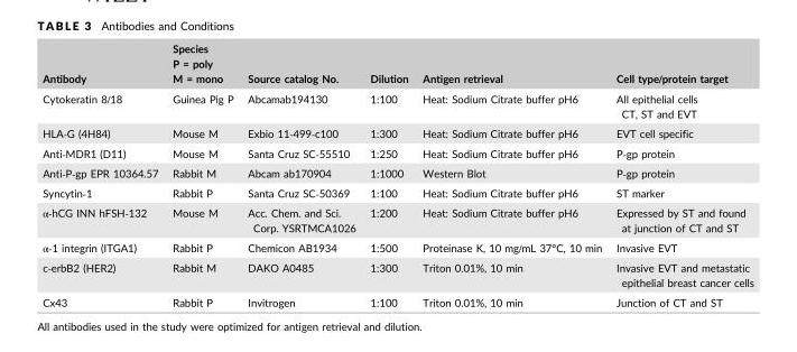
<table><thead><tr><td>Antibody</td><td>Species P = poly M = mono</td><td>Source catalog No.</td><td>Dilution</td><td>Antigen retrieval</td><td>Cell type/protein target</td></tr></thead><tbody><tr><td>Cytokeratin 8/18</td><td>Guinea Pig P</td><td>Abcamab194130</td><td>1:100</td><td>Heat: Sodium Citrate buffer pH6</td><td>All epithelial cells CT, ST and EVT</td></tr><tr><td>HLA‐G (4H84)</td><td>Mouse M</td><td>Exbio 11‐499‐c100</td><td>1:300</td><td>Heat: Sodium Citrate buffer pH6</td><td>EVT cell specific</td></tr><tr><td>Anti‐MDR1 (D11)</td><td>Mouse M</td><td>Santa Cruz SC‐55510</td><td>1:250</td><td>Heat: Sodium Citrate buffer pH6</td><td>P‐gp protein</td></tr><tr><td>Anti‐P‐gp EPR 10364.57</td><td>Rabbit M</td><td>Abcam ab170904</td><td>1:1000</td><td>Western Blot</td><td>P‐gp protein</td></tr><tr><td>Syncytin‐1</td><td>Rabbit P</td><td>Santa Cruz SC‐50369</td><td>1:100</td><td>Heat: Sodium Citrate buffer pH6</td><td>ST marker</td></tr><tr><td>α‐hCG INN hFSH‐132</td><td>Mouse M</td><td>Acc. Chem. and Sci. Corp. YSRTMCA1026</td><td>1:200</td><td>Heat: Sodium Citrate buffer pH6</td><td>Expressed by ST and found at junction of CT and ST</td></tr><tr><td>α‐1 integrin (ITGA1)</td><td>Rabbit P</td><td>Chemicon AB1934</td><td>1:500</td><td>Proteinase K, 10 mg/mL 37°C, 10 min</td><td>Invasive EVT</td></tr><tr><td>c‐erbB2 (HER2)</td><td>Rabbit M</td><td>DAKO A0485</td><td>1:300</td><td>Triton 0.01%, 10 min</td><td>Invasive EVT and metastatic epithelial breast cancer cells</td></tr><tr><td>Cx43</td><td>Rabbit P</td><td>Invitrogen</td><td>1:100</td><td>Triton 0.01%, 10 min</td><td>Junction of CT and ST</td></tr></tbody></table>